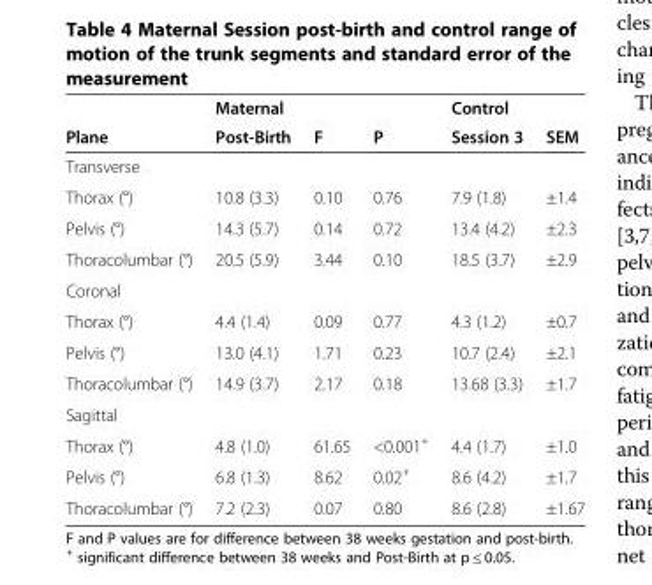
<table><thead><tr><td>measurement Plane</td><td>Maternal Post-Birth</td><td>F</td><td>P</td><td>Control Session 3</td><td>SEM</td></tr></thead><tbody><tr><td colspan="6">Transverse</td></tr><tr><td>Thorax (°)</td><td>10.8 (3.3)</td><td>0.10</td><td>0.76</td><td>7.9 (1.8)</td><td>±1.4</td></tr><tr><td>Pelvis (°)</td><td>14.3 (5.7)</td><td>0.14</td><td>0.72</td><td>13.4 (4.2)</td><td>±2.3</td></tr><tr><td>Thoracolumbar (°)</td><td>20.5 (5.9)</td><td>3.44</td><td>0.10</td><td>18.5 (3.7)</td><td>±2.9</td></tr><tr><td colspan="6">Coronal</td></tr><tr><td>Thorax (°)</td><td>4.4 (1.4)</td><td>0.09</td><td>0.77</td><td>4.3 (1.2)</td><td>±0.7</td></tr><tr><td>Pelvis (°)</td><td>13.0 (4.1)</td><td>1.71</td><td>0.23</td><td>10.7 (2.4)</td><td>±2.1</td></tr><tr><td>Thoracolumbar (°)</td><td>14.9 (3.7)</td><td>2.17</td><td>0.18</td><td>13.68 (3.3)</td><td>±1.7</td></tr><tr><td colspan="6">Sagittal</td></tr><tr><td>Thorax (°)</td><td>4.8 (1.0)</td><td>61.65</td><td>&lt;0.001<sup>+</sup></td><td>4.4 (1.7)</td><td>±1.0</td></tr><tr><td>Pelvis (°)</td><td>6.8 (1.3)</td><td>8.62</td><td>0.02<sup>+</sup></td><td>8.6 (4.2)</td><td>±1.7</td></tr><tr><td>Thoracolumbar (°)</td><td>7.2 (2.3)</td><td>0.07</td><td>0.80</td><td>8.6 (2.8)</td><td>±1.67</td></tr></tbody></table>